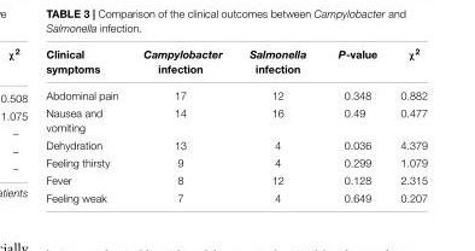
<table><thead><tr><td>Clinical symptoms</td><td>Campylobacter infection</td><td>Salmonella infection</td><td>P-value</td><td>χ<sup>2</sup></td></tr></thead><tbody><tr><td>Abdominal pain</td><td>17</td><td>12</td><td>0.348</td><td>0.882</td></tr><tr><td>Nausea and vomiting</td><td>14</td><td>16</td><td>0.49</td><td>0.477</td></tr><tr><td>Dehydration</td><td>13</td><td>4</td><td>0.036</td><td>4.379</td></tr><tr><td>Feeling thirsty</td><td>9</td><td>4</td><td>0.299</td><td>1.079</td></tr><tr><td>Fever</td><td>8</td><td>12</td><td>0.128</td><td>2.315</td></tr><tr><td>Feeling weak</td><td>7</td><td>4</td><td>0.649</td><td>0.207</td></tr></tbody></table>